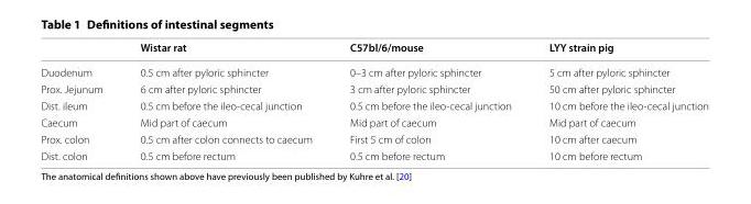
<table><thead><tr><td></td><td>Wistar rat</td><td>C57bl/6/mouse</td><td>LYY strain pig</td></tr></thead><tbody><tr><td>Duodenum</td><td>0.5 cm after pyloric sphincter</td><td>0–3 cm after pyloric sphincter</td><td>5 cm after pyloric sphincter</td></tr><tr><td>Prox. Jejunum</td><td>6 cm after pyloric sphincter</td><td>3 cm after pyloric sphincter</td><td>50 cm after pyloric sphincter</td></tr><tr><td>Dist. ileum</td><td>0.5 cm before the ileo-cecal junction</td><td>0.5 cm before the ileo-cecal junction</td><td>10 cm before the ileo-cecal junction</td></tr><tr><td>Caecum</td><td>Mid part of caecum</td><td>Mid part of caecum</td><td>Mid part of caecum</td></tr><tr><td>Prox. colon</td><td>0.5 cm after colon connects to caecum</td><td>First 5 cm of colon</td><td>10 cm after caecum</td></tr><tr><td>Dist. colon</td><td>0.5 cm before rectum</td><td>0.5 cm before rectum</td><td>10 cm before rectum</td></tr></tbody></table>